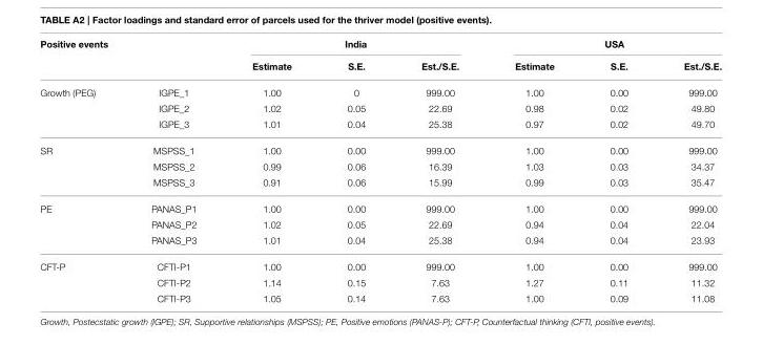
<table><thead><tr><td colspan="2">Positive events</td><td colspan="3">India</td><td colspan="3">USA</td></tr><tr><td></td><td></td><td>Estimate</td><td>S.E.</td><td>Est./S.E.</td><td>Estimate</td><td>S.E.</td><td>Est./S.E.</td></tr></thead><tbody><tr><td rowspan="3">Growth (PEG)</td><td>IGPE_1</td><td>1.00</td><td>0</td><td>999.00</td><td>1.00</td><td>0.00</td><td>999.00</td></tr><tr><td>IGPE_2</td><td>1.02</td><td>0.05</td><td>22.69</td><td>0.98</td><td>0.02</td><td>49.80</td></tr><tr><td>IGPE_3</td><td>1.01</td><td>0.04</td><td>25.38</td><td>0.97</td><td>0.02</td><td>49.70</td></tr><tr><td rowspan="3">SR</td><td>MSPSS_1</td><td>1.00</td><td>0.00</td><td>999.00</td><td>1.00</td><td>0.00</td><td>999.00</td></tr><tr><td>MSPSS_2</td><td>0.99</td><td>0.06</td><td>16.39</td><td>1.03</td><td>0.03</td><td>34.37</td></tr><tr><td>MSPSS_3</td><td>0.91</td><td>0.06</td><td>15.99</td><td>0.99</td><td>0.03</td><td>35.47</td></tr><tr><td rowspan="3">PE</td><td>PANAS_P1</td><td>1.00</td><td>0.00</td><td>999.00</td><td>1.00</td><td>0.00</td><td>999.00</td></tr><tr><td>PANAS_P2</td><td>1.02</td><td>0.05</td><td>22.69</td><td>0.94</td><td>0.04</td><td>22.04</td></tr><tr><td>PANAS_P3</td><td>1.01</td><td>0.04</td><td>25.38</td><td>0.94</td><td>0.04</td><td>23.93</td></tr><tr><td rowspan="3">CFT-P</td><td>CFTI-P1</td><td>1.00</td><td>0.00</td><td>999.00</td><td>1.00</td><td>0.00</td><td>999.00</td></tr><tr><td>CFTI-P2</td><td>1.14</td><td>0.15</td><td>7.63</td><td>1.27</td><td>0.11</td><td>11.32</td></tr><tr><td>CFTI-P3</td><td>1.05</td><td>0.14</td><td>7.63</td><td>1.00</td><td>0.09</td><td>11.08</td></tr></tbody></table>